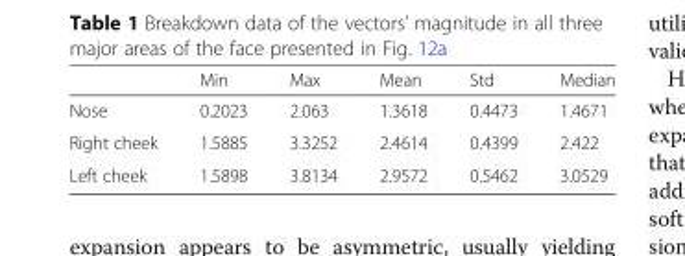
<table><thead><tr><td></td><td>Min</td><td>Max</td><td>Mean</td><td>Std</td><td>Median</td></tr></thead><tbody><tr><td>Nose</td><td>0.2023</td><td>2.063</td><td>1.3618</td><td>0.4473</td><td>1.4671</td></tr><tr><td>Right cheek</td><td>1.5885</td><td>3.3252</td><td>2.4614</td><td>0.4399</td><td>2.422</td></tr><tr><td>Left cheek</td><td>1.5898</td><td>3.8134</td><td>2.9572</td><td>0.5462</td><td>3.0529</td></tr></tbody></table>